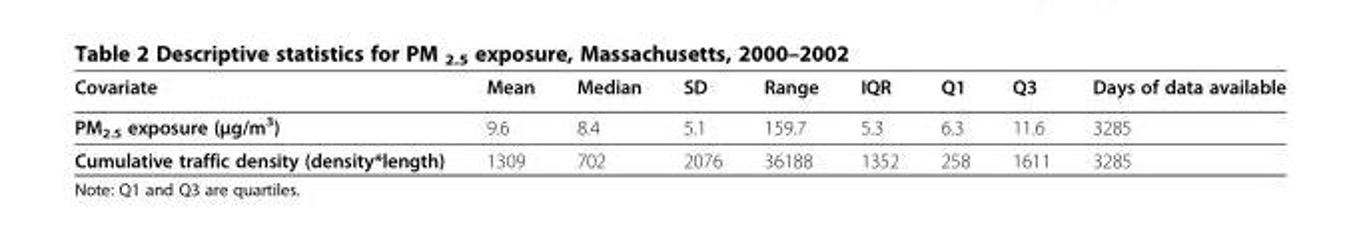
<table><thead><tr><td>Covariate</td><td>Mean</td><td>Median</td><td>SD</td><td>Range</td><td>IQR</td><td>Q1</td><td>Q3</td><td>Days of data available</td></tr></thead><tbody><tr><td>PM<sub>2.5</sub> exposure (μg/m<sup>3</sup>)</td><td>9.6</td><td>8.4</td><td>5.1</td><td>159.7</td><td>5.3</td><td>6.3</td><td>11.6</td><td>3285</td></tr><tr><td>Cumulative traffic density (density*length)</td><td>1309</td><td>702</td><td>2076</td><td>36188</td><td>1352</td><td>258</td><td>1611</td><td>3285</td></tr></tbody></table>